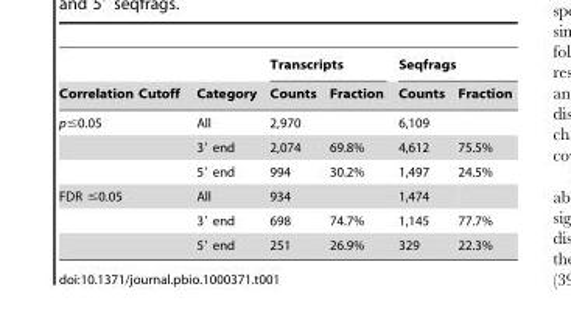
<table><thead><tr><td rowspan="2">Correlation Cutoff</td><td rowspan="2">Category</td><td colspan="2">Transcripts</td><td colspan="2">Seqfrags</td></tr><tr><td>Counts</td><td>Fraction</td><td>Counts</td><td>Fraction</td></tr></thead><tbody><tr><td rowspan="3">p≤0.05</td><td>All</td><td>2,970</td><td></td><td>6,109</td><td></td></tr><tr><td>3′ end</td><td>2,074</td><td>69.8%</td><td>4,612</td><td>75.5%</td></tr><tr><td>5′ end</td><td>994</td><td>30.2%</td><td>1,497</td><td>24.5%</td></tr><tr><td rowspan="3">FDR ≤0.05</td><td>All</td><td>934</td><td></td><td>1,474</td><td></td></tr><tr><td>3′ end</td><td>698</td><td>74.7%</td><td>1,145</td><td>77.7%</td></tr><tr><td>5′ end</td><td>251</td><td>26.9%</td><td>329</td><td>22.3%</td></tr></tbody></table>